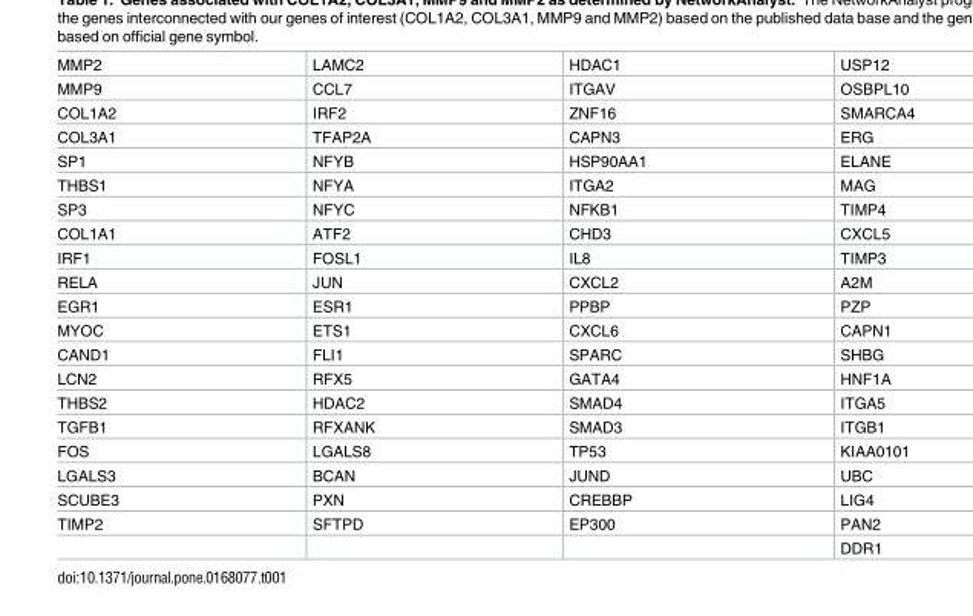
<table><tbody><tr><td>MMP2</td><td>LAMC2</td><td>HDAC1</td><td>USP12</td></tr><tr><td>MMP9</td><td>CCL7</td><td>ITGAV</td><td>OSBPL10</td></tr><tr><td>COL1A2</td><td>IRF2</td><td>ZNF16</td><td>SMARCA4</td></tr><tr><td>COL3A1</td><td>TFAP2A</td><td>CAPN3</td><td>ERG</td></tr><tr><td>SP1</td><td>NFYB</td><td>HSP90AA1</td><td>ELANE</td></tr><tr><td>THBS1</td><td>NFYA</td><td>ITGA2</td><td>MAG</td></tr><tr><td>SP3</td><td>NFYC</td><td>NFKB1</td><td>TIMP4</td></tr><tr><td>COL1A1</td><td>ATF2</td><td>CHD3</td><td>CXCL5</td></tr><tr><td>IRF1</td><td>FOSL1</td><td>IL8</td><td>TIMP3</td></tr><tr><td>RELA</td><td>JUN</td><td>CXCL2</td><td>A2M</td></tr><tr><td>EGR1</td><td>ESR1</td><td>PPBP</td><td>PZP</td></tr><tr><td>MYOC</td><td>ETS1</td><td>CXCL6</td><td>CAPN1</td></tr><tr><td>CAND1</td><td>FLI1</td><td>SPARC</td><td>SHBG</td></tr><tr><td>LCN2</td><td>RFX5</td><td>GATA4</td><td>HNF1A</td></tr><tr><td>THBS2</td><td>HDAC2</td><td>SMAD4</td><td>ITGA5</td></tr><tr><td>TGFB1</td><td>RFXANK</td><td>SMAD3</td><td>ITGB1</td></tr><tr><td>FOS</td><td>LGALS8</td><td>TP53</td><td>KIAA0101</td></tr><tr><td>LGALS3</td><td>BCAN</td><td>JUND</td><td>UBC</td></tr><tr><td>SCUBE3</td><td>PXN</td><td>CREBBP</td><td>LIG4</td></tr><tr><td rowspan="2">TIMP2</td><td>SFTPD</td><td>EP300</td><td>PAN2</td></tr><tr><td></td><td></td><td>DDR1</td></tr></tbody></table>